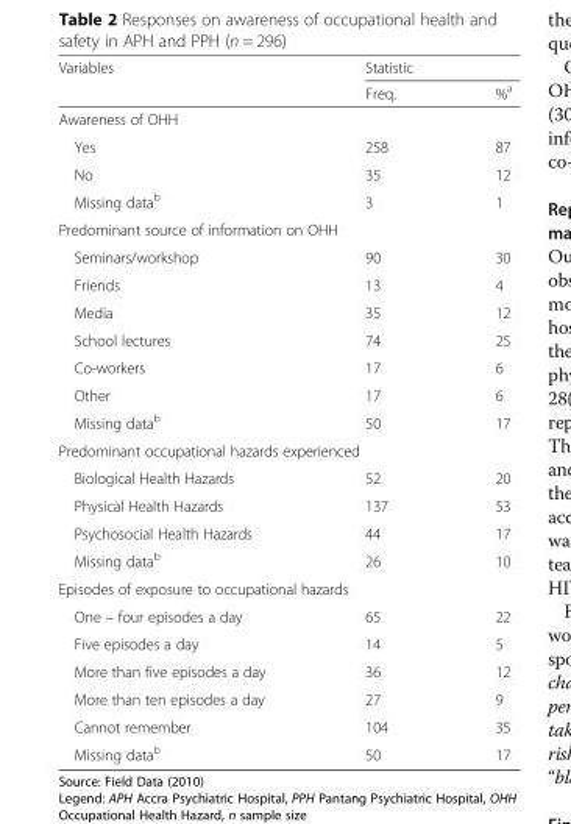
<table><thead><tr><td rowspan="2">Variables</td><td colspan="2">Statistic</td></tr><tr><td>Freq.</td><td>%<sup>a</sup></td></tr></thead><tbody><tr><td colspan="3">Awareness of OHH</td></tr><tr><td>Yes</td><td>258</td><td>87</td></tr><tr><td>No</td><td>35</td><td>12</td></tr><tr><td>Missing data<sup>b</sup></td><td>3</td><td>1</td></tr><tr><td colspan="3">Predominant source of information on OHH</td></tr><tr><td>Seminars/workshop</td><td>90</td><td>30</td></tr><tr><td>Friends</td><td>13</td><td>4</td></tr><tr><td>Media</td><td>35</td><td>12</td></tr><tr><td>School lectures</td><td>74</td><td>25</td></tr><tr><td>Co-workers</td><td>17</td><td>6</td></tr><tr><td>Other</td><td>17</td><td>6</td></tr><tr><td>Missing data<sup>b</sup></td><td>50</td><td>17</td></tr><tr><td colspan="3">Predominant occupational hazards experienced</td></tr><tr><td>Biological Health Hazards</td><td>52</td><td>20</td></tr><tr><td>Physical Health Hazards</td><td>137</td><td>53</td></tr><tr><td>Psychosocial Health Hazards</td><td>44</td><td>17</td></tr><tr><td>Missing data<sup>b</sup></td><td>26</td><td>10</td></tr><tr><td colspan="3">Episodes of exposure to occupational hazards</td></tr><tr><td>One – four episodes a day</td><td>65</td><td>22</td></tr><tr><td>Five episodes a day</td><td>14</td><td>5</td></tr><tr><td>More than five episodes a day</td><td>36</td><td>12</td></tr><tr><td>More than ten episodes a day</td><td>27</td><td>9</td></tr><tr><td>Cannot remember</td><td>104</td><td>35</td></tr><tr><td>Missing data<sup>b</sup></td><td>50</td><td>17</td></tr></tbody></table>